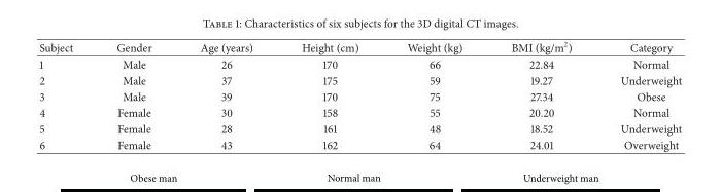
<table><thead><tr><td>Subject</td><td>Gender</td><td>Age (years)</td><td>Height (cm)</td><td>Weight (kg)</td><td>BMI (kg/m<sup>2</sup>)</td><td>Category</td></tr></thead><tbody><tr><td>1</td><td>Male</td><td>26</td><td>170</td><td>66</td><td>22.84</td><td>Normal</td></tr><tr><td>2</td><td>Male</td><td>37</td><td>175</td><td>59</td><td>19.27</td><td>Underweight</td></tr><tr><td>3</td><td>Male</td><td>39</td><td>170</td><td>75</td><td>27.34</td><td>Obese</td></tr><tr><td>4</td><td>Female</td><td>30</td><td>158</td><td>55</td><td>20.20</td><td>Normal</td></tr><tr><td>5</td><td>Female</td><td>28</td><td>161</td><td>48</td><td>18.52</td><td>Underweight</td></tr><tr><td>6</td><td>Female</td><td>43</td><td>162</td><td>64</td><td>24.01</td><td>Overweight</td></tr></tbody></table>